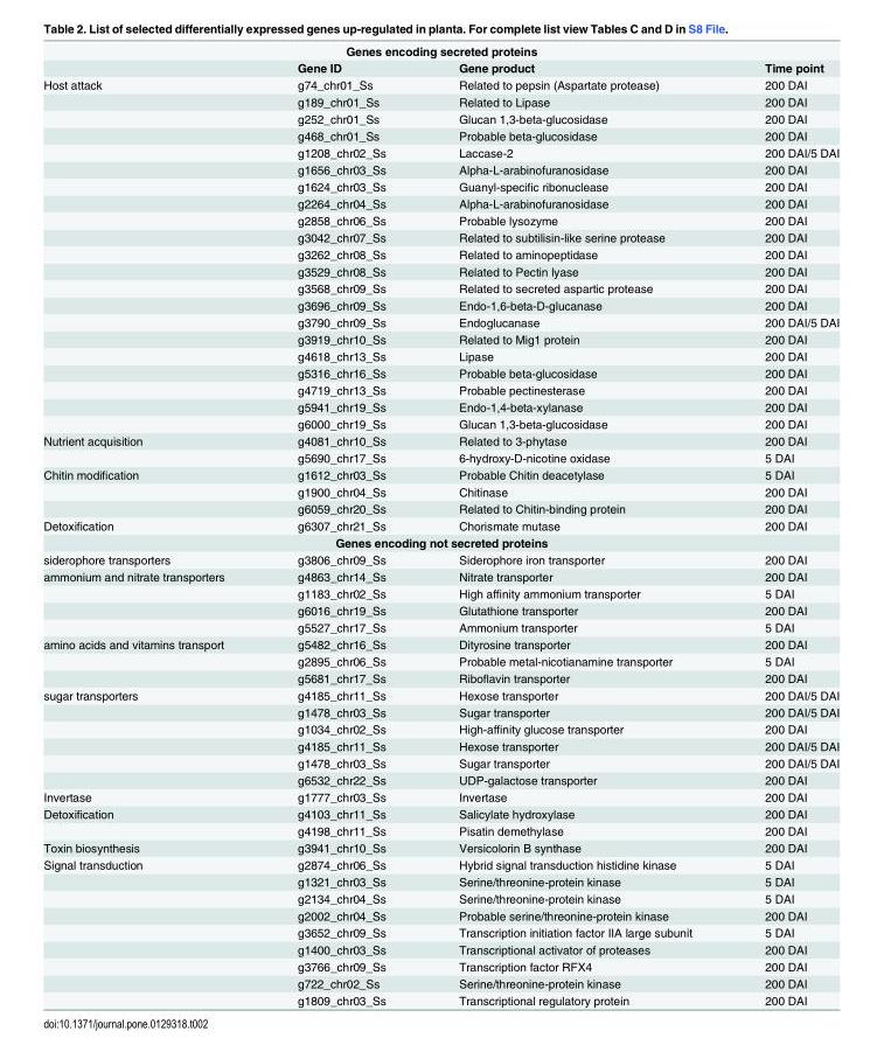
<table><tbody><tr><td colspan="4">Genes encoding secreted proteins</td></tr><tr><td></td><td>Gene ID</td><td>Gene product</td><td>Time point</td></tr><tr><td rowspan="21">Host attack</td><td>g74_chr01_Ss</td><td>Related to pepsin (Aspartate protease)</td><td>200 DAI</td></tr><tr><td>g189_chr01_Ss</td><td>Related to Lipase</td><td>200 DAI</td></tr><tr><td>g252_chr01_Ss</td><td>Glucan 1,3-beta-glucosidase</td><td>200 DAI</td></tr><tr><td>g468_chr01_Ss</td><td>Probable beta-glucosidase</td><td>200 DAI</td></tr><tr><td>g1208_chr02_Ss</td><td>Laccase-2</td><td>200 DAI/5 DAI</td></tr><tr><td>g1656_chr03_Ss</td><td>Alpha-L-arabinofuranosidase</td><td>200 DAI</td></tr><tr><td>g1624_chr03_Ss</td><td>Guanyl-specific ribonuclease</td><td>200 DAI</td></tr><tr><td>g2264_chr04_Ss</td><td>Alpha-L-arabinofuranosidase</td><td>200 DAI</td></tr><tr><td>g2858_chr06_Ss</td><td>Probable lysozyme</td><td>200 DAI</td></tr><tr><td>g3042_chr07_Ss</td><td>Related to subtilisin-like serine protease</td><td>200 DAI</td></tr><tr><td>g3262_chr08_Ss</td><td>Related to aminopeptidase</td><td>200 DAI</td></tr><tr><td>g3529_chr08_Ss</td><td>Related to Pectin lyase</td><td>200 DAI</td></tr><tr><td>g3568_chr09_Ss</td><td>Related to secreted aspartic protease</td><td>200 DAI</td></tr><tr><td>g3696_chr09_Ss</td><td>Endo-1,6-beta-D-glucanase</td><td>200 DAI</td></tr><tr><td>g3790_chr09_Ss</td><td>Endoglucanase</td><td>200 DAI/5 DAI</td></tr><tr><td>g3919_chr10_Ss</td><td>Related to Mig1 protein</td><td>200 DAI</td></tr><tr><td>g4618_chr13_Ss</td><td>Lipase</td><td>200 DAI</td></tr><tr><td>g5316_chr16_Ss</td><td>Probable beta-glucosidase</td><td>200 DAI</td></tr><tr><td>g4719_chr13_Ss</td><td>Probable pectinesterase</td><td>200 DAI</td></tr><tr><td>g5941_chr19_Ss</td><td>Endo-1,4-beta-xylanase</td><td>200 DAI</td></tr><tr><td>g6000_chr19_Ss</td><td>Glucan 1,3-beta-glucosidase</td><td>200 DAI</td></tr><tr><td rowspan="2">Nutrient acquisition</td><td>g4081_chr10_Ss</td><td>Related to 3-phytase</td><td>200 DAI</td></tr><tr><td>g5690_chr17_Ss</td><td>6-hydroxy-D-nicotine oxidase</td><td>5 DAI</td></tr><tr><td rowspan="3">Chitin modification</td><td>g1612_chr03_Ss</td><td>Probable Chitin deacetylase</td><td>5 DAI</td></tr><tr><td>g1900_chr04_Ss</td><td>Chitinase</td><td>200 DAI</td></tr><tr><td>g6059_chr20_Ss</td><td>Related to Chitin-binding protein</td><td>200 DAI</td></tr><tr><td>Detoxification</td><td>g6307_chr21_Ss</td><td>Chorismate mutase</td><td>200 DAI</td></tr><tr><td colspan="4">Genes encoding not secreted proteins</td></tr><tr><td>siderophore transporters</td><td>g3806_chr09_Ss</td><td>Siderophore iron transporter</td><td>200 DAI</td></tr><tr><td rowspan="4">ammonium and nitrate transporters</td><td>g4863_chr14_Ss</td><td>Nitrate transporter</td><td>200 DAI</td></tr><tr><td>g1183_chr02_Ss</td><td>High affinity ammonium transporter</td><td>5 DAI</td></tr><tr><td>g6016_chr19_Ss</td><td>Glutathione transporter</td><td>200 DAI</td></tr><tr><td>g5527_chr17_Ss</td><td>Ammonium transporter</td><td>5 DAI</td></tr><tr><td rowspan="3">amino acids and vitamins transport</td><td>g5482_chr16_Ss</td><td>Dityrosine transporter</td><td>200 DAI</td></tr><tr><td>g2895_chr06_Ss</td><td>Probable metal-nicotianamine transporter</td><td>5 DAI</td></tr><tr><td>g5681_chr17_Ss</td><td>Riboflavin transporter</td><td>200 DAI</td></tr><tr><td rowspan="6">sugar transporters</td><td>g4185_chr11_Ss</td><td>Hexose transporter</td><td>200 DAI/5 DAI</td></tr><tr><td>g1478_chr03_Ss</td><td>Sugar transporter</td><td>200 DAI/5 DAI</td></tr><tr><td>g1034_chr02_Ss</td><td>High-affinity glucose transporter</td><td>200 DAI</td></tr><tr><td>g4185_chr11_Ss</td><td>Hexose transporter</td><td>200 DAI/5 DAI</td></tr><tr><td>g1478_chr03_Ss</td><td>Sugar transporter</td><td>200 DAI/5 DAI</td></tr><tr><td>g6532_chr22_Ss</td><td>UDP-galactose transporter</td><td>200 DAI</td></tr><tr><td>Invertase</td><td>g1777_chr03_Ss</td><td>Invertase</td><td>200 DAI</td></tr><tr><td rowspan="2">Detoxification</td><td>g4103_chr11_Ss</td><td>Salicylate hydroxylase</td><td>200 DAI</td></tr><tr><td>g4198_chr11_Ss</td><td>Pisatin demethylase</td><td>200 DAI</td></tr><tr><td>Toxin biosynthesis</td><td>g3941_chr10_Ss</td><td>Versicolorin B synthase</td><td>200 DAI</td></tr><tr><td rowspan="9">Signal transduction</td><td>g2874_chr06_Ss</td><td>Hybrid signal transduction histidine kinase</td><td>5 DAI</td></tr><tr><td>g1321_chr03_Ss</td><td>Serine/threonine-protein kinase</td><td>5 DAI</td></tr><tr><td>g2134_chr04_Ss</td><td>Serine/threonine-protein kinase</td><td>5 DAI</td></tr><tr><td>g2002_chr04_Ss</td><td>Probable serine/threonine-protein kinase</td><td>200 DAI</td></tr><tr><td>g3652_chr09_Ss</td><td>Transcription initiation factor IIA large subunit</td><td>5 DAI</td></tr><tr><td>g1400_chr03_Ss</td><td>Transcriptional activator of proteases</td><td>200 DAI</td></tr><tr><td>g3766_chr09_Ss</td><td>Transcription factor RFX4</td><td>200 DAI</td></tr><tr><td>g722_chr02_Ss</td><td>Serine/threonine-protein kinase</td><td>200 DAI</td></tr><tr><td>g1809_chr03_Ss</td><td>Transcriptional regulatory protein</td><td>200 DAI</td></tr></tbody></table>